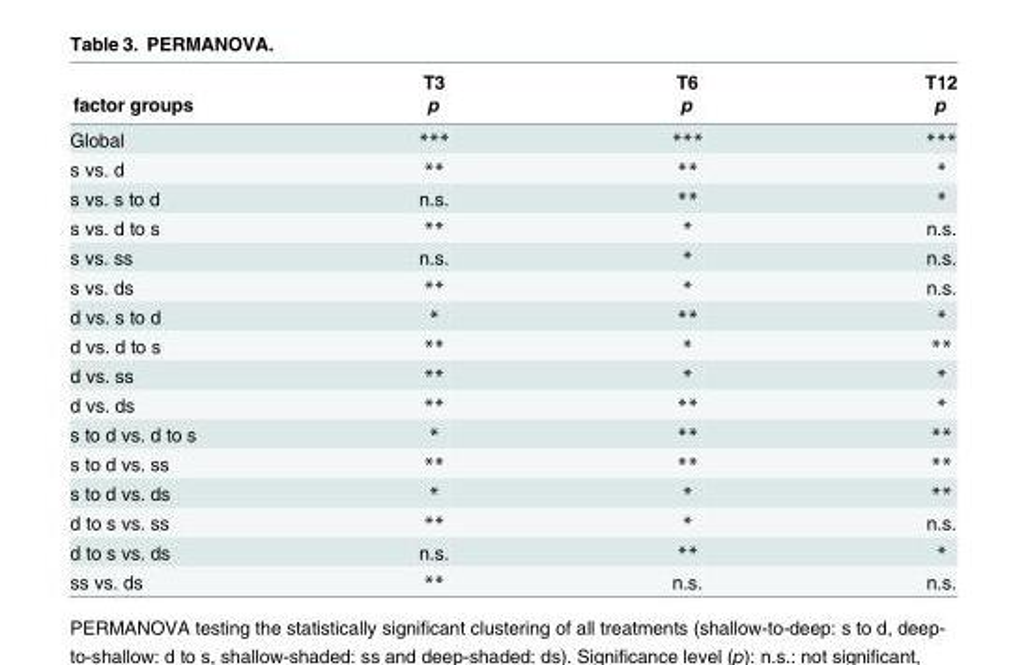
<table><thead><tr><td rowspan="2">factor groups</td><td rowspan="2">T3 p</td><td rowspan="2">T6 p</td><td rowspan="2">T12 p</td></tr><tr></tr></thead><tbody><tr><td>Global</td><td>***</td><td>***</td><td>***</td></tr><tr><td>s vs. d</td><td>**</td><td>**</td><td>*</td></tr><tr><td>s vs. s to d</td><td>n.s.</td><td>**</td><td>*</td></tr><tr><td>s vs. d to s</td><td>**</td><td>*</td><td>n.s.</td></tr><tr><td>s vs. ss</td><td>n.s.</td><td>*</td><td>n.s.</td></tr><tr><td>s vs. ds</td><td>**</td><td>*</td><td>n.s.</td></tr><tr><td>d vs. s to d</td><td>*</td><td>**</td><td>*</td></tr><tr><td>d vs. d to s</td><td>**</td><td>*</td><td>**</td></tr><tr><td>d vs. ss</td><td>**</td><td>*</td><td>*</td></tr><tr><td>d vs. ds</td><td>**</td><td>**</td><td>*</td></tr><tr><td>s to d vs. d to s</td><td>*</td><td>**</td><td>**</td></tr><tr><td>s to d vs. ss</td><td>**</td><td>**</td><td>**</td></tr><tr><td>s to d vs. ds</td><td>*</td><td>*</td><td>**</td></tr><tr><td>d to s vs. ss</td><td>**</td><td>*</td><td>n.s.</td></tr><tr><td>d to s vs. ds</td><td>n.s.</td><td>**</td><td>*</td></tr><tr><td>ss vs. ds</td><td>**</td><td>n.s.</td><td>n.s.</td></tr></tbody></table>